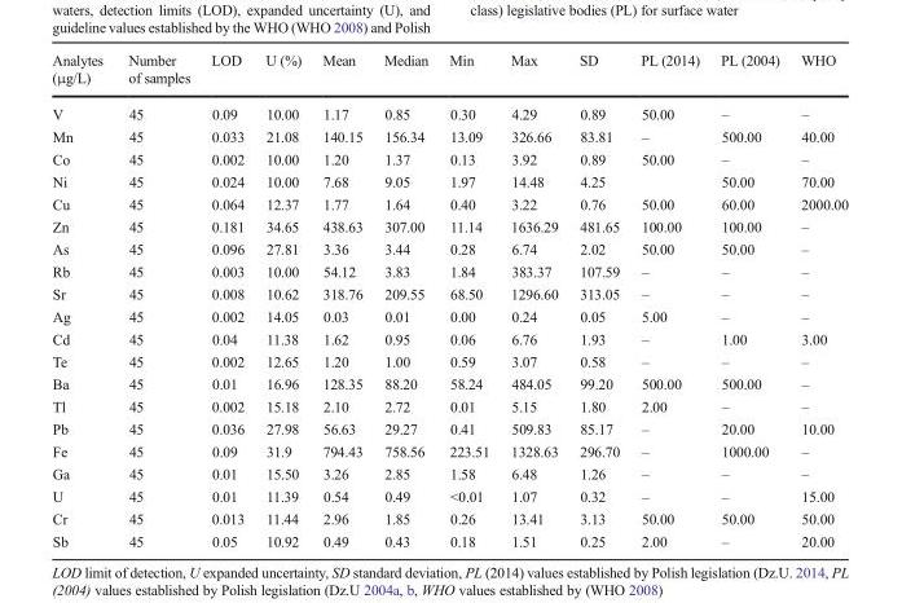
<table><thead><tr><td>Analytes (μg/L)</td><td>Number of samples</td><td>LOD</td><td>U (%)</td><td>Mean</td><td>Median</td><td>Min</td><td>Max</td><td>SD</td><td>PL (2014)</td><td>PL (2004)</td><td>WHO</td></tr></thead><tbody><tr><td>V</td><td>45</td><td>0.09</td><td>10.00</td><td>1.17</td><td>0.85</td><td>0.30</td><td>4.29</td><td>0.89</td><td>50.00</td><td>–</td><td>–</td></tr><tr><td>Mn</td><td>45</td><td>0.033</td><td>21.08</td><td>140.15</td><td>156.34</td><td>13.09</td><td>326.66</td><td>83.81</td><td>–</td><td>500.00</td><td>40.00</td></tr><tr><td>Co</td><td>45</td><td>0.002</td><td>10.00</td><td>1.20</td><td>1.37</td><td>0.13</td><td>3.92</td><td>0.89</td><td>50.00</td><td>–</td><td>–</td></tr><tr><td>Ni</td><td>45</td><td>0.024</td><td>10.00</td><td>7.68</td><td>9.05</td><td>1.97</td><td>14.48</td><td>4.25</td><td></td><td>50.00</td><td>70.00</td></tr><tr><td>Cu</td><td>45</td><td>0.064</td><td>12.37</td><td>1.77</td><td>1.64</td><td>0.40</td><td>3.22</td><td>0.76</td><td>50.00</td><td>60.00</td><td>2000.00</td></tr><tr><td>Zn</td><td>45</td><td>0.181</td><td>34.65</td><td>438.63</td><td>307.00</td><td>11.14</td><td>1636.29</td><td>481.65</td><td>100.00</td><td>100.00</td><td>–</td></tr><tr><td>As</td><td>45</td><td>0.096</td><td>27.81</td><td>3.36</td><td>3.44</td><td>0.28</td><td>6.74</td><td>2.02</td><td>50.00</td><td>50.00</td><td>–</td></tr><tr><td>Rb</td><td>45</td><td>0.003</td><td>10.00</td><td>54.12</td><td>3.83</td><td>1.84</td><td>383.37</td><td>107.59</td><td>–</td><td>–</td><td>–</td></tr><tr><td>Sr</td><td>45</td><td>0.008</td><td>10.62</td><td>318.76</td><td>209.55</td><td>68.50</td><td>1296.60</td><td>313.05</td><td>–</td><td>–</td><td>–</td></tr><tr><td>Ag</td><td>45</td><td>0.002</td><td>14.05</td><td>0.03</td><td>0.01</td><td>0.00</td><td>0.24</td><td>0.05</td><td>5.00</td><td>–</td><td>–</td></tr><tr><td>Cd</td><td>45</td><td>0.04</td><td>11.38</td><td>1.62</td><td>0.95</td><td>0.06</td><td>6.76</td><td>1.93</td><td>–</td><td>1.00</td><td>3.00</td></tr><tr><td>Te</td><td>45</td><td>0.002</td><td>12.65</td><td>1.20</td><td>1.00</td><td>0.59</td><td>3.07</td><td>0.58</td><td>–</td><td>–</td><td>–</td></tr><tr><td>Ba</td><td>45</td><td>0.01</td><td>16.96</td><td>128.35</td><td>88.20</td><td>58.24</td><td>484.05</td><td>99.20</td><td>500.00</td><td>500.00</td><td>–</td></tr><tr><td>Tl</td><td>45</td><td>0.002</td><td>15.18</td><td>2.10</td><td>2.72</td><td>0.01</td><td>5.15</td><td>1.80</td><td>2.00</td><td>–</td><td>–</td></tr><tr><td>Pb</td><td>45</td><td>0.036</td><td>27.98</td><td>56.63</td><td>29.27</td><td>0.41</td><td>509.83</td><td>85.17</td><td>–</td><td>20.00</td><td>10.00</td></tr><tr><td>Fe</td><td>45</td><td>0.09</td><td>31.9</td><td>794.43</td><td>758.56</td><td>223.51</td><td>1328.63</td><td>296.70</td><td>–</td><td>1000.00</td><td>–</td></tr><tr><td>Ga</td><td>45</td><td>0.01</td><td>15.50</td><td>3.26</td><td>2.85</td><td>1.58</td><td>6.48</td><td>1.26</td><td>–</td><td>–</td><td>–</td></tr><tr><td>U</td><td>45</td><td>0.01</td><td>11.39</td><td>0.54</td><td>0.49</td><td>&lt;0.01</td><td>1.07</td><td>0.32</td><td>–</td><td>–</td><td>15.00</td></tr><tr><td>Cr</td><td>45</td><td>0.013</td><td>11.44</td><td>2.96</td><td>1.85</td><td>0.26</td><td>13.41</td><td>3.13</td><td>50.00</td><td>50.00</td><td>50.00</td></tr><tr><td>Sb</td><td>45</td><td>0.05</td><td>10.92</td><td>0.49</td><td>0.43</td><td>0.18</td><td>1.51</td><td>0.25</td><td>2.00</td><td>–</td><td>20.00</td></tr></tbody></table>